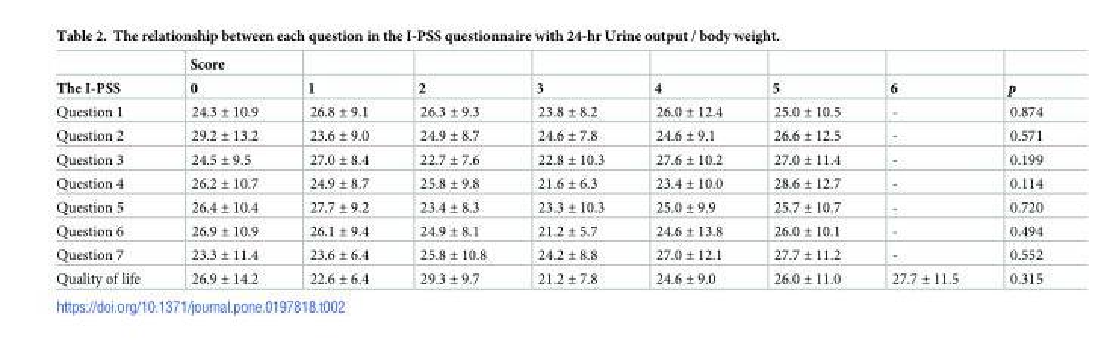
<table><thead><tr><td rowspan="2">The I-PSS</td><td rowspan="2">Score 0</td><td rowspan="2">1</td><td rowspan="2">2</td><td rowspan="2">3</td><td rowspan="2">4</td><td rowspan="2">5</td><td rowspan="2">6</td><td rowspan="2">p</td></tr><tr></tr></thead><tbody><tr><td>Question 1</td><td>24.3 ± 10.9</td><td>26.8 ± 9.1</td><td>26.3 ± 9.3</td><td>23.8 ± 8.2</td><td>26.0 ± 12.4</td><td>25.0 ± 10.5</td><td>-</td><td>0.874</td></tr><tr><td>Question 2</td><td>29.2 ± 13.2</td><td>23.6 ± 9.0</td><td>24.9 ± 8.7</td><td>24.6 ± 7.8</td><td>24.6 ± 9.1</td><td>26.6 ± 12.5</td><td>-</td><td>0.571</td></tr><tr><td>Question 3</td><td>24.5 ± 9.5</td><td>27.0 ± 8.4</td><td>22.7 ± 7.6</td><td>22.8 ± 10.3</td><td>27.6 ± 10.2</td><td>27.0 ± 11.4</td><td>-</td><td>0.199</td></tr><tr><td>Question 4</td><td>26.2 ± 10.7</td><td>24.9 ± 8.7</td><td>25.8 ± 9.8</td><td>21.6 ± 6.3</td><td>23.4 ± 10.0</td><td>28.6 ± 12.7</td><td>-</td><td>0.114</td></tr><tr><td>Question 5</td><td>26.4 ± 10.4</td><td>27.7 ± 9.2</td><td>23.4 ± 8.3</td><td>23.3 ± 10.3</td><td>25.0 ± 9.9</td><td>25.7 ± 10.7</td><td>-</td><td>0.720</td></tr><tr><td>Question 6</td><td>26.9 ± 10.9</td><td>26.1 ± 9.4</td><td>24.9 ± 8.1</td><td>21.2 ± 5.7</td><td>24.6 ± 13.8</td><td>26.0 ± 10.1</td><td>-</td><td>0.494</td></tr><tr><td>Question 7</td><td>23.3 ± 11.4</td><td>23.6 ± 6.4</td><td>25.8 ± 10.8</td><td>24.2 ± 8.8</td><td>27.0 ± 12.1</td><td>27.7 ± 11.2</td><td>-</td><td>0.552</td></tr><tr><td>Quality of life</td><td>26.9 ± 14.2</td><td>22.6 ± 6.4</td><td>29.3 ± 9.7</td><td>21.2 ± 7.8</td><td>24.6 ± 9.0</td><td>26.0 ± 11.0</td><td>27.7 ± 11.5</td><td>0.315</td></tr></tbody></table>